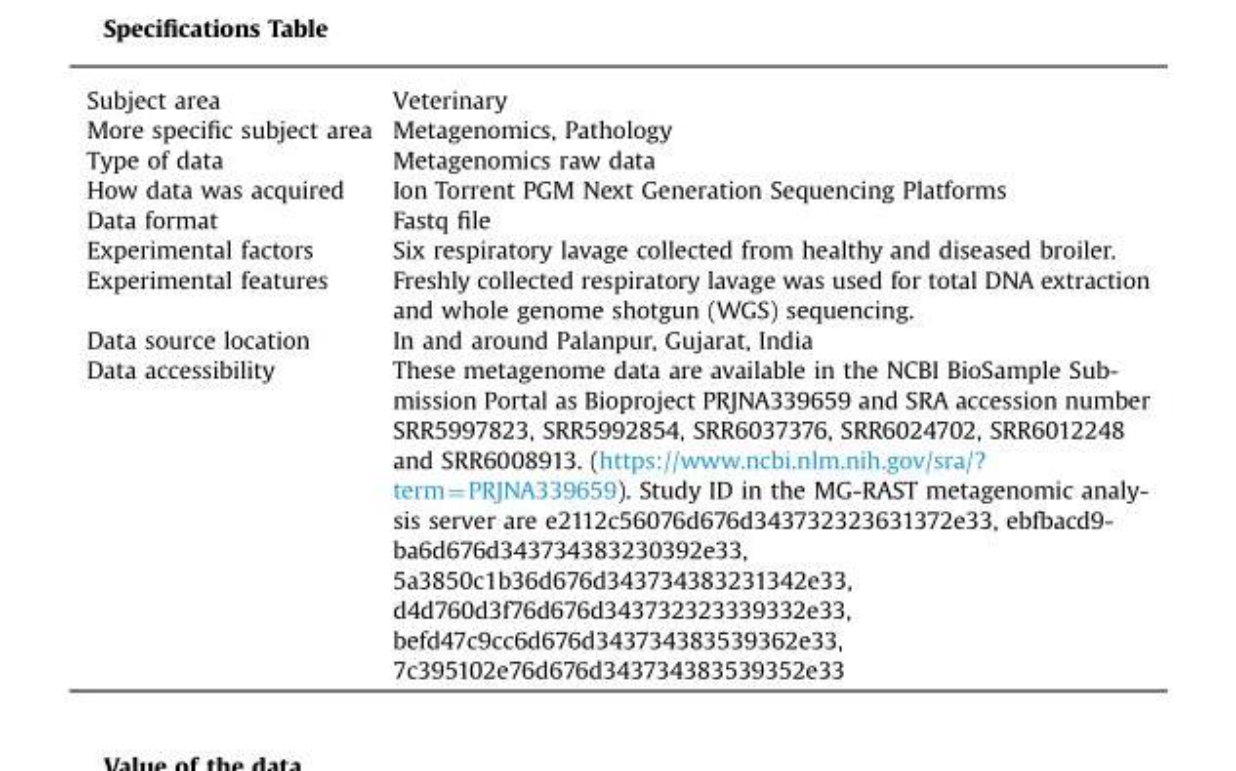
<table><thead><tr><td>Subject area</td><td>Veterinary</td></tr></thead><tbody><tr><td>More specific subject area</td><td>Metagenomics, Pathology</td></tr><tr><td>Type of data</td><td>Metagenomics raw data</td></tr><tr><td>How data was acquired</td><td>Ion Torrent PGM Next Generation Sequencing Platforms</td></tr><tr><td>Data format</td><td>Fastq file</td></tr><tr><td>Experimental factors</td><td>Six respiratory lavage collected from healthy and diseased broiler.</td></tr><tr><td>Experimental features</td><td>Freshly collected respiratory lavage was used for total DNA extraction and whole genome shotgun (WGS) sequencing.</td></tr><tr><td>Data source location</td><td>In and around Palanpur, Gujarat, India</td></tr><tr><td>Data accessibility</td><td>These metagenome data are available in the NCBI BioSample Sub- mission Portal as Bioproject PRJNA339659 and SRA accession number SRR5997823, SRR5992854, SRR6037376, SRR6024702, SRR6012248 and SRR6008913. (https://www.ncbi.nlm.nih.gov/sra/? term¼PRJNA339659). Study ID in the MG-RAST metagenomic analy- sis server are e2112c56076d676d343732323631372e33, ebfbacd9- ba6d676d343734383230392e33, 5a3850c1b36d676d343734383231342e33, d4d760d3f76d676d343732323339332e33, befd47c9cc6d676d343734383539362e33, 7c395102e76d676d343734383539352e33</td></tr></tbody></table>